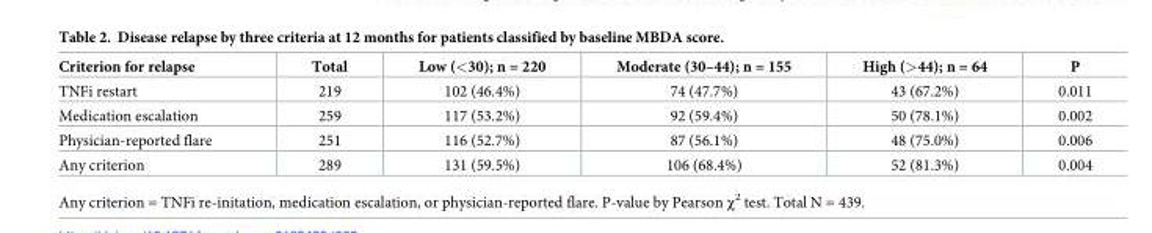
<table><thead><tr><td>Criterion for relapse</td><td>Total</td><td>Low (&lt;30); n = 220</td><td>Moderate (30–44); n = 155</td><td>High (&gt;44); n = 64</td><td>P</td></tr></thead><tbody><tr><td>TNFi restart</td><td>219</td><td>102 (46.4%)</td><td>74 (47.7%)</td><td>43 (67.2%)</td><td>0.011</td></tr><tr><td>Medication escalation</td><td>259</td><td>117 (53.2%)</td><td>92 (59.4%)</td><td>50 (78.1%)</td><td>0.002</td></tr><tr><td>Physician-reported flare</td><td>251</td><td>116 (52.7%)</td><td>87 (56.1%)</td><td>48 (75.0%)</td><td>0.006</td></tr><tr><td>Any criterion</td><td>289</td><td>131 (59.5%)</td><td>106 (68.4%)</td><td>52 (81.3%)</td><td>0.004</td></tr></tbody></table>